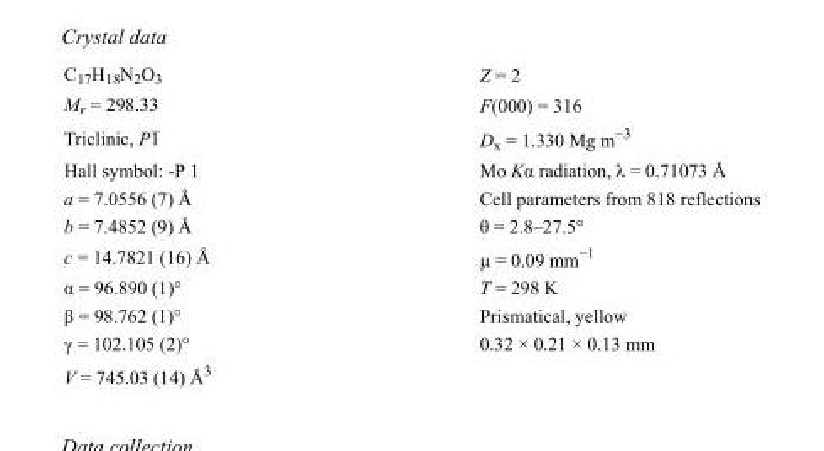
<table><tbody><tr><td>C<sub>17</sub>H<sub>18</sub>N<sub>2</sub>O<sub>3</sub></td><td>Z = 2</td></tr><tr><td>M<sub>r</sub> = 298.33</td><td>F(000) = 316</td></tr><tr><td>Triclinic, P1</td><td>D<sub>x</sub> = 1.330 Mg m<sup>−3</sup></td></tr><tr><td>Hall symbol: -P 1</td><td>Mo Kα radiation, λ = 0.71073 Å</td></tr><tr><td>a = 7.0556 (7) Å</td><td>Cell parameters from 818 reflections</td></tr><tr><td>b = 7.4852 (9) Å</td><td>θ = 2.8–27.5°</td></tr><tr><td>c = 14.7821 (16) Å</td><td>µ = 0.09 mm<sup>−1</sup></td></tr><tr><td>α = 96.890 (1)°</td><td>T = 298 K</td></tr><tr><td>β = 98.762 (1)°</td><td>Prismatical, yellow</td></tr><tr><td>γ = 102.105 (2)°</td><td>0.32 × 0.21 × 0.13 mm</td></tr><tr><td>V = 745.03 (14) Å<sup>3</sup></td><td></td></tr></tbody></table>